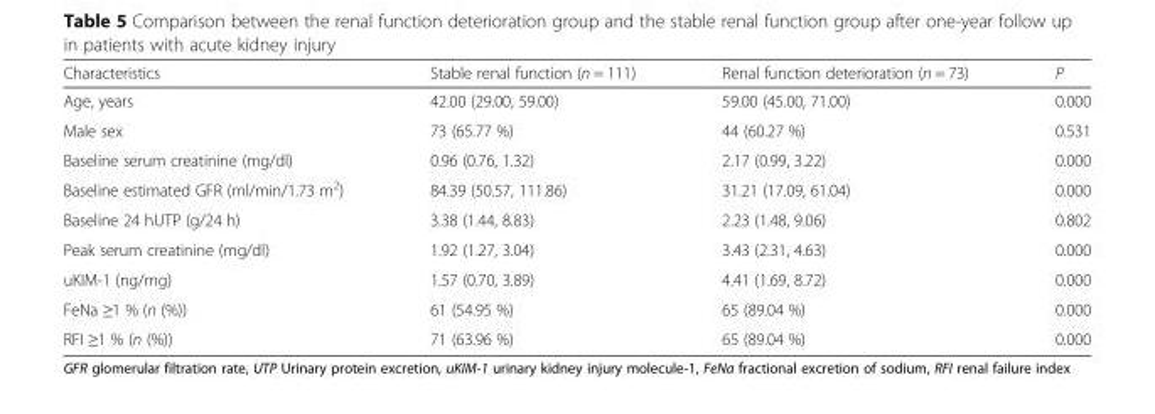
<table><thead><tr><td>Characteristics</td><td>Stable renal function (n = 111)</td><td>Renal function deterioration (n = 73)</td><td>P</td></tr></thead><tbody><tr><td>Age, years</td><td>42.00 (29.00, 59.00)</td><td>59.00 (45.00, 71.00)</td><td>0.000</td></tr><tr><td>Male sex</td><td>73 (65.77 %)</td><td>44 (60.27 %)</td><td>0.531</td></tr><tr><td>Baseline serum creatinine (mg/dl)</td><td>0.96 (0.76, 1.32)</td><td>2.17 (0.99, 3.22)</td><td>0.000</td></tr><tr><td>Baseline estimated GFR (ml/min/1.73 m<sup>2</sup>)</td><td>84.39 (50.57, 111.86)</td><td>31.21 (17.09, 61.04)</td><td>0.000</td></tr><tr><td>Baseline 24 hUTP (g/24 h)</td><td>3.38 (1.44, 8.83)</td><td>2.23 (1.48, 9.06)</td><td>0.802</td></tr><tr><td>Peak serum creatinine (mg/dl)</td><td>1.92 (1.27, 3.04)</td><td>3.43 (2.31, 4.63)</td><td>0.000</td></tr><tr><td>uKIM-1 (ng/mg)</td><td>1.57 (0.70, 3.89)</td><td>4.41 (1.69, 8.72)</td><td>0.000</td></tr><tr><td>FeNa ≥1 % (n (%))</td><td>61 (54.95 %)</td><td>65 (89.04 %)</td><td>0.000</td></tr><tr><td>RFI ≥1 % (n (%))</td><td>71 (63.96 %)</td><td>65 (89.04 %)</td><td>0.000</td></tr></tbody></table>